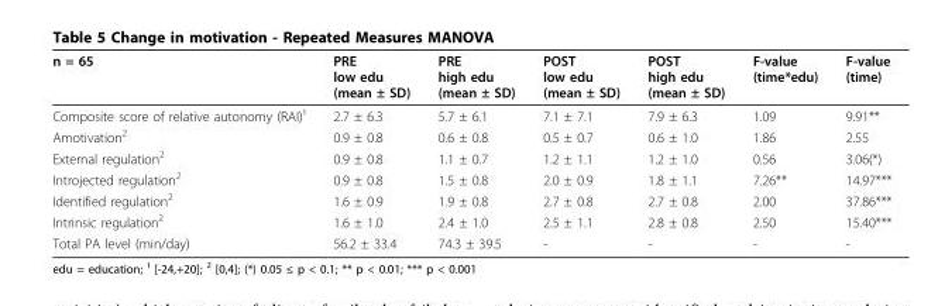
<table><thead><tr><td>n = 65</td><td>PRE low edu (mean ± SD)</td><td>PRE high edu (mean ± SD)</td><td>POST low edu (mean ± SD)</td><td>POST high edu (mean ± SD)</td><td>F-value (time*edu)</td><td>F-value (time)</td></tr></thead><tbody><tr><td>Composite score of relative autonomy (RAI)¹</td><td>2.7 ± 6.3</td><td>5.7 ± 6.1</td><td>7.1 ± 7.1</td><td>7.9 ± 6.3</td><td>1.09</td><td>9.91**</td></tr><tr><td>Amotivation<sup>2</sup></td><td>0.9 ± 0.8</td><td>0.6 ± 0.8</td><td>0.5 ± 0.7</td><td>0.6 ± 1.0</td><td>1.86</td><td>2.55</td></tr><tr><td>External regulation<sup>2</sup></td><td>0.9 ± 0.8</td><td>1.1 ± 0.7</td><td>1.2 ± 1.1</td><td>1.2 ± 1.0</td><td>0.56</td><td>3.06(*)</td></tr><tr><td>Introjected regulation<sup>2</sup></td><td>0.9 ± 0.8</td><td>1.5 ± 0.8</td><td>2.0 ± 0.9</td><td>1.8 ± 1.1</td><td>7.26**</td><td>14.97***</td></tr><tr><td>Identified regulation<sup>2</sup></td><td>1.6 ± 0.9</td><td>1.9 ± 0.8</td><td>2.7 ± 0.8</td><td>2.7 ± 0.8</td><td>2.00</td><td>37.86***</td></tr><tr><td>Intrinsic regulation<sup>2</sup></td><td>1.6 ± 1.0</td><td>2.4 ± 1.0</td><td>2.5 ± 1.1</td><td>2.8 ± 0.8</td><td>2.50</td><td>15.40***</td></tr><tr><td>Total PA level (min/day)</td><td>56.2 ± 33.4</td><td>74.3 ± 39.5</td><td>-</td><td>-</td><td>-</td><td>-</td></tr></tbody></table>